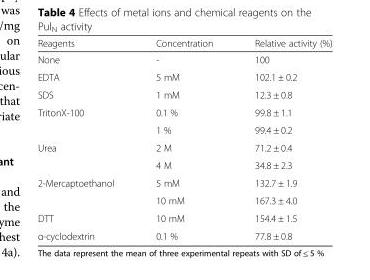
<table><thead><tr><td>Reagents</td><td>Concentration</td><td>Relative activity (%)</td></tr></thead><tbody><tr><td>None</td><td>-</td><td>100</td></tr><tr><td>EDTA</td><td>5 mM</td><td>102.1 ± 0.2</td></tr><tr><td>SDS</td><td>1 mM</td><td>12.3 ± 0.8</td></tr><tr><td rowspan="2">TritonX-100</td><td>0.1 %</td><td>99.8 ± 1.1</td></tr><tr><td>1 %</td><td>99.4 ± 0.2</td></tr><tr><td rowspan="2">Urea</td><td>2 M</td><td>71.2 ± 0.4</td></tr><tr><td>4 M</td><td>34.8 ± 2.3</td></tr><tr><td rowspan="2">2-Mercaptoethanol</td><td>5 mM</td><td>132.7 ± 1.9</td></tr><tr><td>10 mM</td><td>167.3 ± 4.0</td></tr><tr><td>DTT</td><td>10 mM</td><td>154.4 ± 1.5</td></tr><tr><td>α-cyclodextrin</td><td>0.1 %</td><td>77.8 ± 0.8</td></tr></tbody></table>